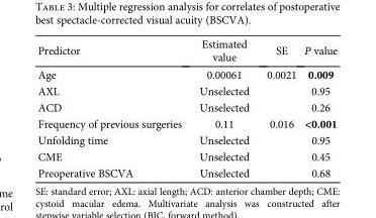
<table><thead><tr><td>Predictor</td><td>Estimated value</td><td>SE</td><td>P value</td></tr></thead><tbody><tr><td>Age</td><td>0.00061</td><td>0.0021</td><td>0.009</td></tr><tr><td>AXL</td><td>Unselected</td><td></td><td>0.95</td></tr><tr><td>ACD</td><td>Unselected</td><td></td><td>0.26</td></tr><tr><td>Frequency of previous surgeries</td><td>0.11</td><td>0.016</td><td>&lt;0.001</td></tr><tr><td>Unfolding time</td><td>Unselected</td><td></td><td>0.95</td></tr><tr><td>CME</td><td>Unselected</td><td></td><td>0.45</td></tr><tr><td>Preoperative BSCVA</td><td>Unselected</td><td></td><td>0.68</td></tr></tbody></table>